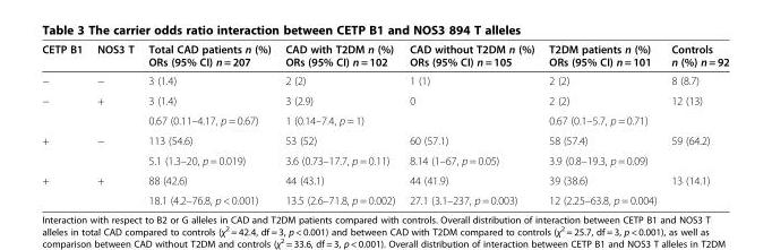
<table><thead><tr><td>CETP B1</td><td>NOS3 T</td><td>Total CAD patients n (%) ORs (95% CI) n = 207</td><td>CAD with T2DM n (%) ORs (95% CI) n = 102</td><td>CAD without T2DM n (%) ORs (95% CI) n = 105</td><td>T2DM patients n (%) ORs (95% CI) n = 101</td><td>Controls n (%) n = 92</td></tr></thead><tbody><tr><td>−</td><td>−</td><td>3 (1.4)</td><td>2 (2)</td><td>1 (1)</td><td>2 (2)</td><td>8 (8.7)</td></tr><tr><td rowspan="2">−</td><td rowspan="2">+</td><td>3 (1.4)</td><td>3 (2.9)</td><td rowspan="2">0</td><td>2 (2)</td><td rowspan="2">12 (13)</td></tr><tr><td>0.67 (0.11–4.17, p = 0.67)</td><td>1 (0.14–7.4, p = 1)</td><td>0.67 (0.1–5.7, p = 0.71)</td></tr><tr><td rowspan="2">+</td><td rowspan="2">−</td><td>113 (54.6)</td><td>53 (52)</td><td>60 (57.1)</td><td>58 (57.4)</td><td rowspan="2">59 (64.2)</td></tr><tr><td>5.1 (1.3–20, p = 0.019)</td><td>3.6 (0.73–17.7, p = 0.11)</td><td>8.14 (1–67, p = 0.05)</td><td>3.9 (0.8–19.3, p = 0.09)</td></tr><tr><td rowspan="2">+</td><td rowspan="2">+</td><td>88 (42.6)</td><td>44 (43.1)</td><td>44 (41.9)</td><td>39 (38.6)</td><td rowspan="2">13 (14.1)</td></tr><tr><td>18.1 (4.2–76.8, p &lt; 0.001)</td><td>13.5 (2.6–71.8, p = 0.002)</td><td>27.1 (3.1–237, p = 0.003)</td><td>12 (2.25–63.8, p = 0.004)</td></tr></tbody></table>